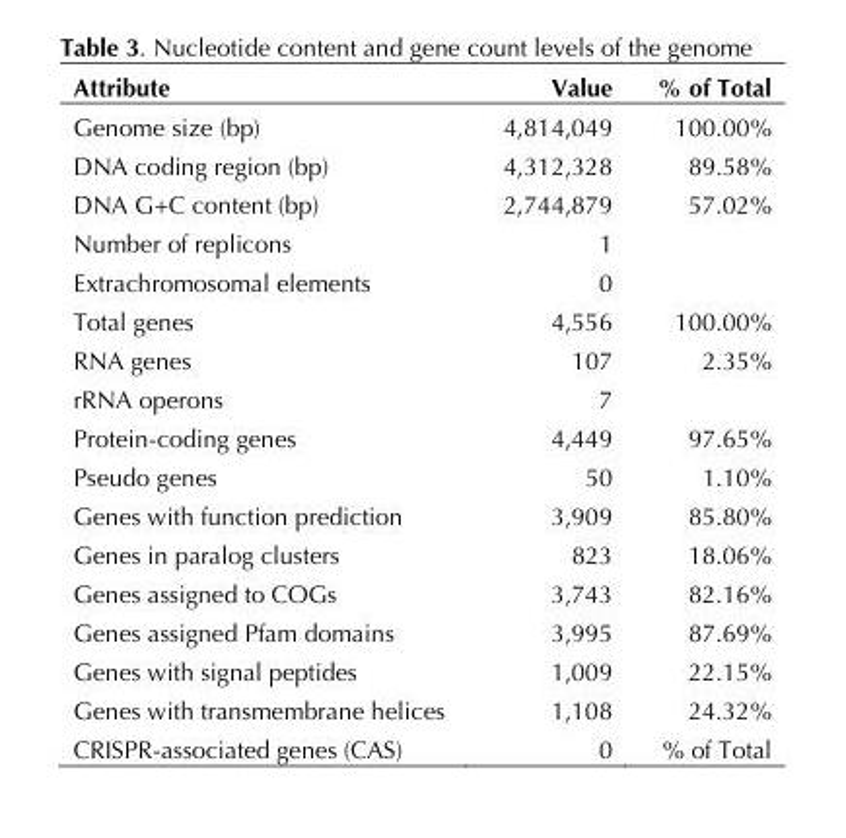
<table><thead><tr><td>Attribute</td><td>Value</td><td>% of Total</td></tr></thead><tbody><tr><td>Genome size (bp)</td><td>4,814,049</td><td>100.00%</td></tr><tr><td>DNA coding region (bp)</td><td>4,312,328</td><td>89.58%</td></tr><tr><td>DNA G+C content (bp)</td><td>2,744,879</td><td>57.02%</td></tr><tr><td>Number of replicons</td><td>1</td><td></td></tr><tr><td>Extrachromosomal elements</td><td>0</td><td></td></tr><tr><td>Total genes</td><td>4,556</td><td>100.00%</td></tr><tr><td>RNA genes</td><td>107</td><td>2.35%</td></tr><tr><td>rRNA operons</td><td>7</td><td></td></tr><tr><td>Protein-coding genes</td><td>4,449</td><td>97.65%</td></tr><tr><td>Pseudo genes</td><td>50</td><td>1.10%</td></tr><tr><td>Genes with function prediction</td><td>3,909</td><td>85.80%</td></tr><tr><td>Genes in paralog clusters</td><td>823</td><td>18.06%</td></tr><tr><td>Genes assigned to COGs</td><td>3,743</td><td>82.16%</td></tr><tr><td>Genes assigned Pfam domains</td><td>3,995</td><td>87.69%</td></tr><tr><td>Genes with signal peptides</td><td>1,009</td><td>22.15%</td></tr><tr><td>Genes with transmembrane helices</td><td>1,108</td><td>24.32%</td></tr><tr><td>CRISPR-associated genes (CAS)</td><td>0</td><td>% of Total</td></tr></tbody></table>